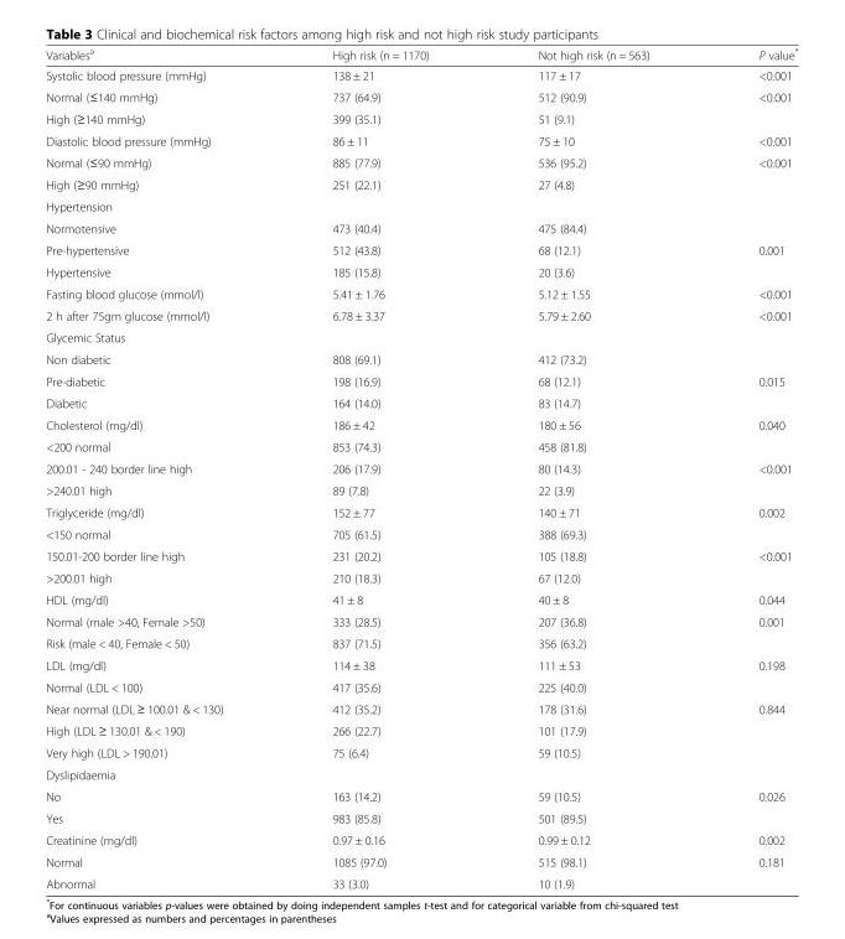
<table><thead><tr><td>Variables<sup>a</sup></td><td>High risk (n = 1170)</td><td>Not high risk (n = 563)</td><td>P value*</td></tr></thead><tbody><tr><td>Systolic blood pressure (mmHg)</td><td>138 ± 21</td><td>117 ± 17</td><td>&lt;0.001</td></tr><tr><td>Normal (≤140 mmHg)</td><td>737 (64.9)</td><td>512 (90.9)</td><td>&lt;0.001</td></tr><tr><td>High (≥140 mmHg)</td><td>399 (35.1)</td><td>51 (9.1)</td><td></td></tr><tr><td>Diastolic blood pressure (mmHg)</td><td>86 ± 11</td><td>75 ± 10</td><td>&lt;0.001</td></tr><tr><td>Normal (≤90 mmHg)</td><td>885 (77.9)</td><td>536 (95.2)</td><td>&lt;0.001</td></tr><tr><td>High (≥90 mmHg)</td><td>251 (22.1)</td><td>27 (4.8)</td><td></td></tr><tr><td colspan="4">Hypertension</td></tr><tr><td>Normotensive</td><td>473 (40.4)</td><td>475 (84.4)</td><td></td></tr><tr><td>Pre-hypertensive</td><td>512 (43.8)</td><td>68 (12.1)</td><td>0.001</td></tr><tr><td>Hypertensive</td><td>185 (15.8)</td><td>20 (3.6)</td><td></td></tr><tr><td>Fasting blood glucose (mmol/l)</td><td>5.41 ± 1.76</td><td>5.12 ± 1.55</td><td>&lt;0.001</td></tr><tr><td>2 h after 75gm glucose (mmol/l)</td><td>6.78 ± 3.37</td><td>5.79 ± 2.60</td><td>&lt;0.001</td></tr><tr><td colspan="4">Glycemic Status</td></tr><tr><td>Non diabetic</td><td>808 (69.1)</td><td>412 (73.2)</td><td></td></tr><tr><td>Pre-diabetic</td><td>198 (16.9)</td><td>68 (12.1)</td><td>0.015</td></tr><tr><td>Diabetic</td><td>164 (14.0)</td><td>83 (14.7)</td><td></td></tr><tr><td>Cholesterol (mg/dl)</td><td>186 ± 42</td><td>180 ± 56</td><td>0.040</td></tr><tr><td>&lt;200 normal</td><td>853 (74.3)</td><td>458 (81.8)</td><td></td></tr><tr><td>200.01 - 240 border line high</td><td>206 (17.9)</td><td>80 (14.3)</td><td>&lt;0.001</td></tr><tr><td>&gt;240.01 high</td><td>89 (7.8)</td><td>22 (3.9)</td><td></td></tr><tr><td>Triglyceride (mg/dl)</td><td>152 ± 77</td><td>140 ± 71</td><td>0.002</td></tr><tr><td>&lt;150 normal</td><td>705 (61.5)</td><td>388 (69.3)</td><td></td></tr><tr><td>150.01-200 border line high</td><td>231 (20.2)</td><td>105 (18.8)</td><td>&lt;0.001</td></tr><tr><td>&gt;200.01 high</td><td>210 (18.3)</td><td>67 (12.0)</td><td></td></tr><tr><td>HDL (mg/dl)</td><td>41 ± 8</td><td>40 ± 8</td><td>0.044</td></tr><tr><td>Normal (male &gt;40, Female &gt;50)</td><td>333 (28.5)</td><td>207 (36.8)</td><td>0.001</td></tr><tr><td>Risk (male &lt; 40, Female &lt; 50)</td><td>837 (71.5)</td><td>356 (63.2)</td><td></td></tr><tr><td>LDL (mg/dl)</td><td>114 ± 38</td><td>111 ± 53</td><td>0.198</td></tr><tr><td>Normal (LDL &lt; 100)</td><td>417 (35.6)</td><td>225 (40.0)</td><td></td></tr><tr><td>Near normal (LDL ≥ 100.01 &amp; &lt; 130)</td><td>412 (35.2)</td><td>178 (31.6)</td><td>0.844</td></tr><tr><td>High (LDL ≥ 130.01 &amp; &lt; 190)</td><td>266 (22.7)</td><td>101 (17.9)</td><td></td></tr><tr><td>Very high (LDL &gt; 190.01)</td><td>75 (6.4)</td><td>59 (10.5)</td><td></td></tr><tr><td colspan="4">Dyslipidaemia</td></tr><tr><td>No</td><td>163 (14.2)</td><td>59 (10.5)</td><td>0.026</td></tr><tr><td>Yes</td><td>983 (85.8)</td><td>501 (89.5)</td><td></td></tr><tr><td>Creatinine (mg/dl)</td><td>0.97 ± 0.16</td><td>0.99 ± 0.12</td><td>0.002</td></tr><tr><td>Normal</td><td>1085 (97.0)</td><td>515 (98.1)</td><td>0.181</td></tr><tr><td>Abnormal</td><td>33 (3.0)</td><td>10 (1.9)</td><td></td></tr></tbody></table>